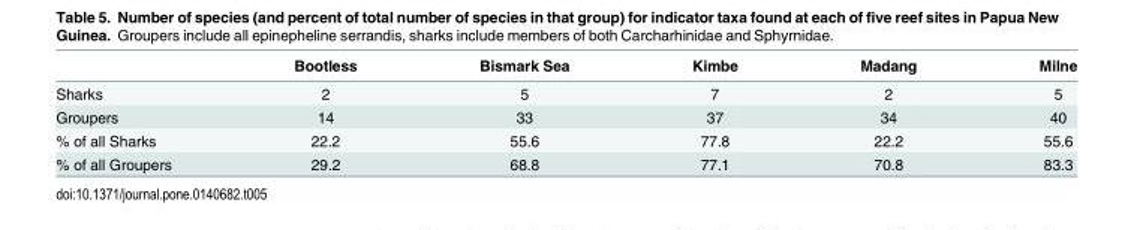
<table><thead><tr><td></td><td>Bootless</td><td>Bismark Sea</td><td>Kimbe</td><td>Madang</td><td>Milne</td></tr></thead><tbody><tr><td>Sharks</td><td>2</td><td>5</td><td>7</td><td>2</td><td>5</td></tr><tr><td>Groupers</td><td>14</td><td>33</td><td>37</td><td>34</td><td>40</td></tr><tr><td>% of all Sharks</td><td>22.2</td><td>55.6</td><td>77.8</td><td>22.2</td><td>55.6</td></tr><tr><td>% of all Groupers</td><td>29.2</td><td>68.8</td><td>77.1</td><td>70.8</td><td>83.3</td></tr></tbody></table>